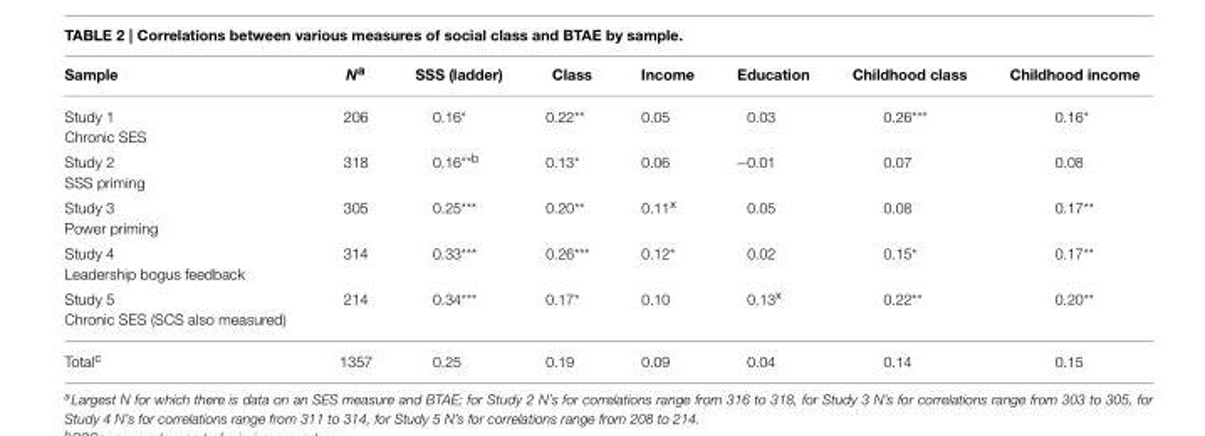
<table><thead><tr><td>Sample</td><td>N<sup>a</sup></td><td>SSS (ladder)</td><td>Class</td><td>Income</td><td>Education</td><td>Childhood class</td><td>Childhood income</td></tr></thead><tbody><tr><td>Study 1 Chronic SES</td><td>206</td><td>0.16*</td><td>0.22**</td><td>0.05</td><td>0.03</td><td>0.26***</td><td>0.16*</td></tr><tr><td>Study 2 SSS priming</td><td>318</td><td>0.16<sup>**b</sup></td><td>0.13*</td><td>0.06</td><td>−0.01</td><td>0.07</td><td>0.08</td></tr><tr><td>Study 3 Power priming</td><td>305</td><td>0.25***</td><td>0.20**</td><td>0.11<sup>x</sup></td><td>0.05</td><td>0.08</td><td>0.17**</td></tr><tr><td>Study 4 Leadership bogus feedback</td><td>314</td><td>0.33***</td><td>0.26***</td><td>0.12*</td><td>0.02</td><td>0.15*</td><td>0.17**</td></tr><tr><td>Study 5 Chronic SES (SCS also measured)</td><td>214</td><td>0.34***</td><td>0.17*</td><td>0.10</td><td>0.13<sup>x</sup></td><td>0.22**</td><td>0.20**</td></tr><tr><td>Total<sup>c</sup></td><td>1357</td><td>0.25</td><td>0.19</td><td>0.09</td><td>0.04</td><td>0.14</td><td>0.15</td></tr></tbody></table>